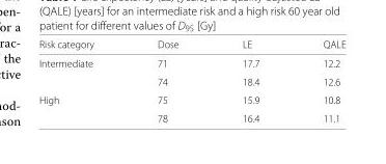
<table><thead><tr><td>Risk category</td><td>Dose</td><td>LE</td><td>QALE</td></tr></thead><tbody><tr><td rowspan="2">Intermediate</td><td>71</td><td>17.7</td><td>12.2</td></tr><tr><td>74</td><td>18.4</td><td>12.6</td></tr><tr><td rowspan="2">High</td><td>75</td><td>15.9</td><td>10.8</td></tr><tr><td>78</td><td>16.4</td><td>11.1</td></tr></tbody></table>